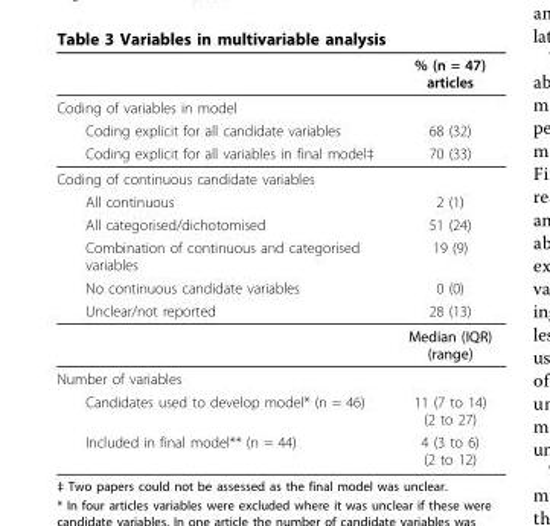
<table><thead><tr><td></td><td>% (n = 47) articles</td></tr></thead><tbody><tr><td colspan="2">Coding of variables in model</td></tr><tr><td>Coding explicit for all candidate variables</td><td>68 (32)</td></tr><tr><td>Coding explicit for all variables in final model‡</td><td>70 (33)</td></tr><tr><td colspan="2">Coding of continuous candidate variables</td></tr><tr><td>All continuous</td><td>2 (1)</td></tr><tr><td>All categorised/dichotomised</td><td>51 (24)</td></tr><tr><td>Combination of continuous and categorised variables</td><td>19 (9)</td></tr><tr><td>No continuous candidate variables</td><td>0 (0)</td></tr><tr><td rowspan="2">Unclear/not reported</td><td>28 (13)</td></tr><tr><td>Median (IQR) (range)</td></tr><tr><td colspan="2">Number of variables</td></tr><tr><td>Candidates used to develop model* (n = 46)</td><td>11 (7 to 14) (2 to 27)</td></tr><tr><td>Included in final model** (n = 44)</td><td>4 (3 to 6) (2 to 12)</td></tr></tbody></table>